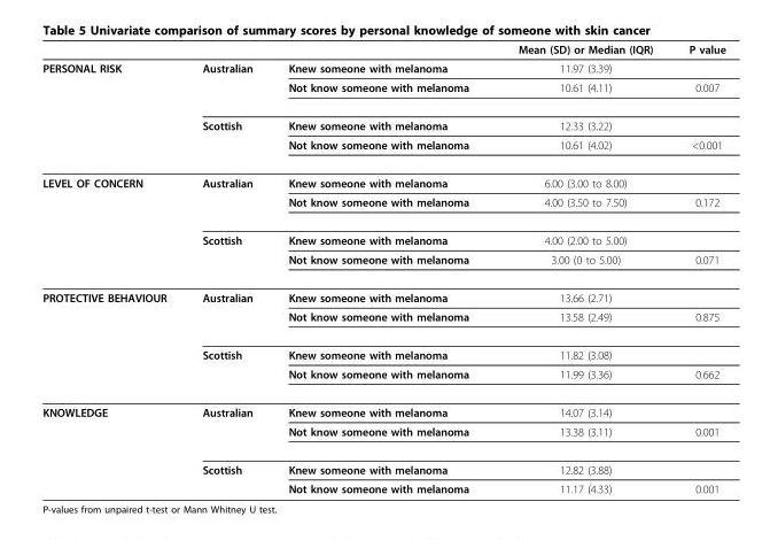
<table><thead><tr><td></td><td></td><td></td><td>Mean (SD) or Median (IQR)</td><td>P value</td></tr></thead><tbody><tr><td rowspan="4">PERSONAL RISK</td><td>Australian</td><td>Knew someone with melanoma</td><td>11.97 (3.39)</td><td></td></tr><tr><td></td><td>Not know someone with melanoma</td><td>10.61 (4.11)</td><td>0.007</td></tr><tr><td>Scottish</td><td>Knew someone with melanoma</td><td>12.33 (3.22)</td><td></td></tr><tr><td></td><td>Not know someone with melanoma</td><td>10.61 (4.02)</td><td>&lt;0.001</td></tr><tr><td rowspan="4">LEVEL OF CONCERN</td><td>Australian</td><td>Knew someone with melanoma</td><td>6.00 (3.00 to 8.00)</td><td></td></tr><tr><td></td><td>Not know someone with melanoma</td><td>4.00 (3.50 to 7.50)</td><td>0.172</td></tr><tr><td>Scottish</td><td>Knew someone with melanoma</td><td>4.00 (2.00 to 5.00)</td><td></td></tr><tr><td></td><td>Not know someone with melanoma</td><td>3.00 (0 to 5.00)</td><td>0.071</td></tr><tr><td rowspan="4">PROTECTIVE BEHAVIOUR</td><td>Australian</td><td>Knew someone with melanoma</td><td>13.66 (2.71)</td><td></td></tr><tr><td></td><td>Not know someone with melanoma</td><td>13.58 (2.49)</td><td>0.875</td></tr><tr><td>Scottish</td><td>Knew someone with melanoma</td><td>11.82 (3.08)</td><td></td></tr><tr><td></td><td>Not know someone with melanoma</td><td>11.99 (3.36)</td><td>0.662</td></tr><tr><td rowspan="4">KNOWLEDGE</td><td>Australian</td><td>Knew someone with melanoma</td><td>14.07 (3.14)</td><td></td></tr><tr><td></td><td>Not know someone with melanoma</td><td>13.38 (3.11)</td><td>0.001</td></tr><tr><td>Scottish</td><td>Knew someone with melanoma</td><td>12.82 (3.88)</td><td></td></tr><tr><td></td><td>Not know someone with melanoma</td><td>11.17 (4.33)</td><td>0.001</td></tr></tbody></table>